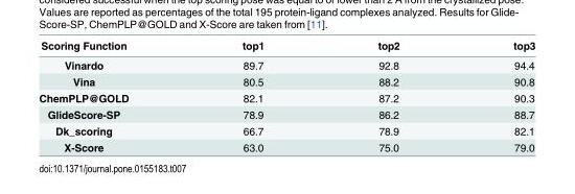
<table><thead><tr><td>Scoring Function</td><td>top1</td><td>top2</td><td>top3</td></tr></thead><tbody><tr><td>Vinardo</td><td>89.7</td><td>92.8</td><td>94.4</td></tr><tr><td>Vina</td><td>80.5</td><td>88.2</td><td>90.8</td></tr><tr><td>ChemPLP@GOLD</td><td>82.1</td><td>87.2</td><td>90.3</td></tr><tr><td>GlideScore-SP</td><td>78.9</td><td>86.2</td><td>88.7</td></tr><tr><td>Dk_scoring</td><td>66.7</td><td>78.9</td><td>82.1</td></tr><tr><td>X-Score</td><td>63.0</td><td>75.0</td><td>79.0</td></tr></tbody></table>